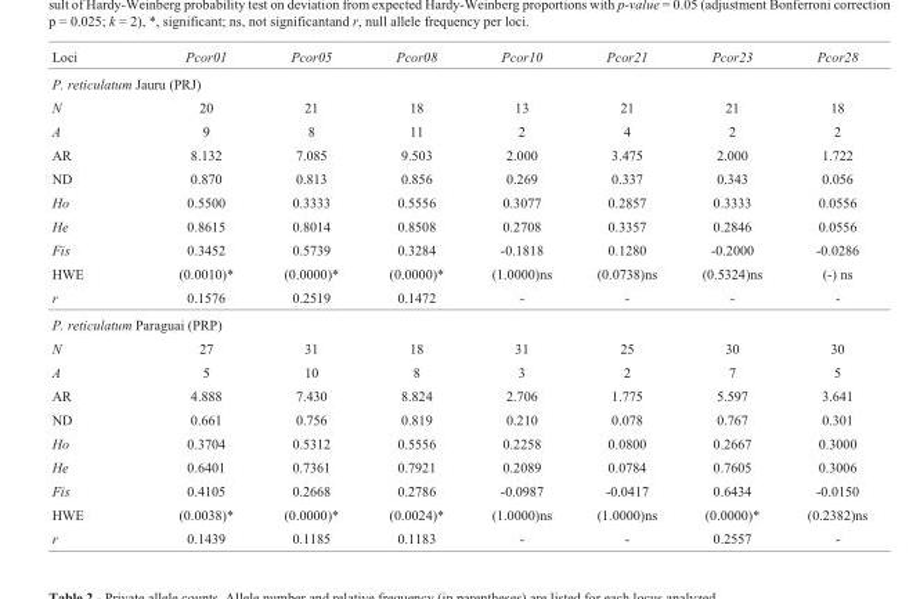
<table><thead><tr><td>Loci</td><td>Pcor01</td><td>Pcor05</td><td>Pcor08</td><td>Pcor10</td><td>Pcor21</td><td>Pcor23</td><td>Pcor28</td></tr></thead><tbody><tr><td colspan="8">P. reticulatum Jauru (PRJ)</td></tr><tr><td>N</td><td>20</td><td>21</td><td>18</td><td>13</td><td>21</td><td>21</td><td>18</td></tr><tr><td>A</td><td>9</td><td>8</td><td>11</td><td>2</td><td>4</td><td>2</td><td>2</td></tr><tr><td>AR</td><td>8.132</td><td>7.085</td><td>9.503</td><td>2.000</td><td>3.475</td><td>2.000</td><td>1.722</td></tr><tr><td>ND</td><td>0.870</td><td>0.813</td><td>0.856</td><td>0.269</td><td>0.337</td><td>0.343</td><td>0.056</td></tr><tr><td>Ho</td><td>0.5500</td><td>0.3333</td><td>0.5556</td><td>0.3077</td><td>0.2857</td><td>0.3333</td><td>0.0556</td></tr><tr><td>He</td><td>0.8615</td><td>0.8014</td><td>0.8508</td><td>0.2708</td><td>0.3357</td><td>0.2846</td><td>0.0556</td></tr><tr><td>Fis</td><td>0.3452</td><td>0.5739</td><td>0.3284</td><td>-0.1818</td><td>0.1280</td><td>-0.2000</td><td>-0.0286</td></tr><tr><td>HWE</td><td>(0.0010)*</td><td>(0.0000)*</td><td>(0.0000)*</td><td>(1.0000)ns</td><td>(0.0738)ns</td><td>(0.5324)ns</td><td>(-) ns</td></tr><tr><td>r</td><td>0.1576</td><td>0.2519</td><td>0.1472</td><td>-</td><td>-</td><td>-</td><td>-</td></tr><tr><td colspan="8">P. reticulatum Paraguai (PRP)</td></tr><tr><td>N</td><td>27</td><td>31</td><td>18</td><td>31</td><td>25</td><td>30</td><td>30</td></tr><tr><td>A</td><td>5</td><td>10</td><td>8</td><td>3</td><td>2</td><td>7</td><td>5</td></tr><tr><td>AR</td><td>4.888</td><td>7.430</td><td>8.824</td><td>2.706</td><td>1.775</td><td>5.597</td><td>3.641</td></tr><tr><td>ND</td><td>0.661</td><td>0.756</td><td>0.819</td><td>0.210</td><td>0.078</td><td>0.767</td><td>0.301</td></tr><tr><td>Ho</td><td>0.3704</td><td>0.5312</td><td>0.5556</td><td>0.2258</td><td>0.0800</td><td>0.2667</td><td>0.3000</td></tr><tr><td>He</td><td>0.6401</td><td>0.7361</td><td>0.7921</td><td>0.2089</td><td>0.0784</td><td>0.7605</td><td>0.3006</td></tr><tr><td>Fis</td><td>0.4105</td><td>0.2668</td><td>0.2786</td><td>-0.0987</td><td>-0.0417</td><td>0.6434</td><td>-0.0150</td></tr><tr><td>HWE</td><td>(0.0038)*</td><td>(0.0000)*</td><td>(0.0024)*</td><td>(1.0000)ns</td><td>(1.0000)ns</td><td>(0.0000)*</td><td>(0.2382)ns</td></tr><tr><td>r</td><td>0.1439</td><td>0.1185</td><td>0.1183</td><td>-</td><td>-</td><td>0.2557</td><td>-</td></tr></tbody></table>